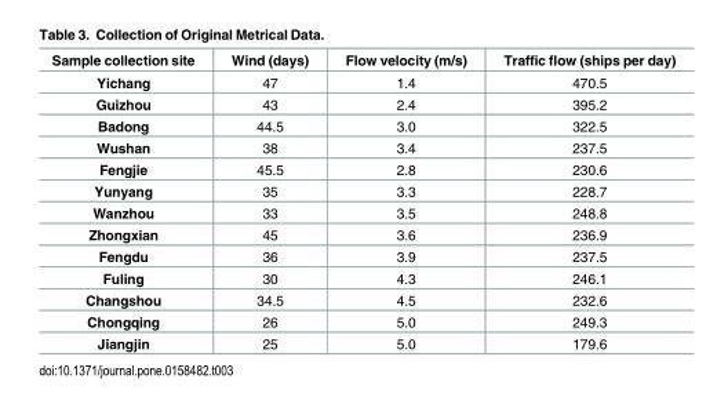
<table><thead><tr><td>Sample collection site</td><td>Wind (days)</td><td>Flow velocity (m/s)</td><td>Traffic flow (ships per day)</td></tr></thead><tbody><tr><td>Yichang</td><td>47</td><td>1.4</td><td>470.5</td></tr><tr><td>Guizhou</td><td>43</td><td>2.4</td><td>395.2</td></tr><tr><td>Badong</td><td>44.5</td><td>3.0</td><td>322.5</td></tr><tr><td>Wushan</td><td>38</td><td>3.4</td><td>237.5</td></tr><tr><td>Fengjie</td><td>45.5</td><td>2.8</td><td>230.6</td></tr><tr><td>Yunyang</td><td>35</td><td>3.3</td><td>228.7</td></tr><tr><td>Wanzhou</td><td>33</td><td>3.5</td><td>248.8</td></tr><tr><td>Zhongxian</td><td>45</td><td>3.6</td><td>236.9</td></tr><tr><td>Fengdu</td><td>36</td><td>3.9</td><td>237.5</td></tr><tr><td>Fuling</td><td>30</td><td>4.3</td><td>246.1</td></tr><tr><td>Changshou</td><td>34.5</td><td>4.5</td><td>232.6</td></tr><tr><td>Chongqing</td><td>26</td><td>5.0</td><td>249.3</td></tr><tr><td>Jiangjin</td><td>25</td><td>5.0</td><td>179.6</td></tr></tbody></table>